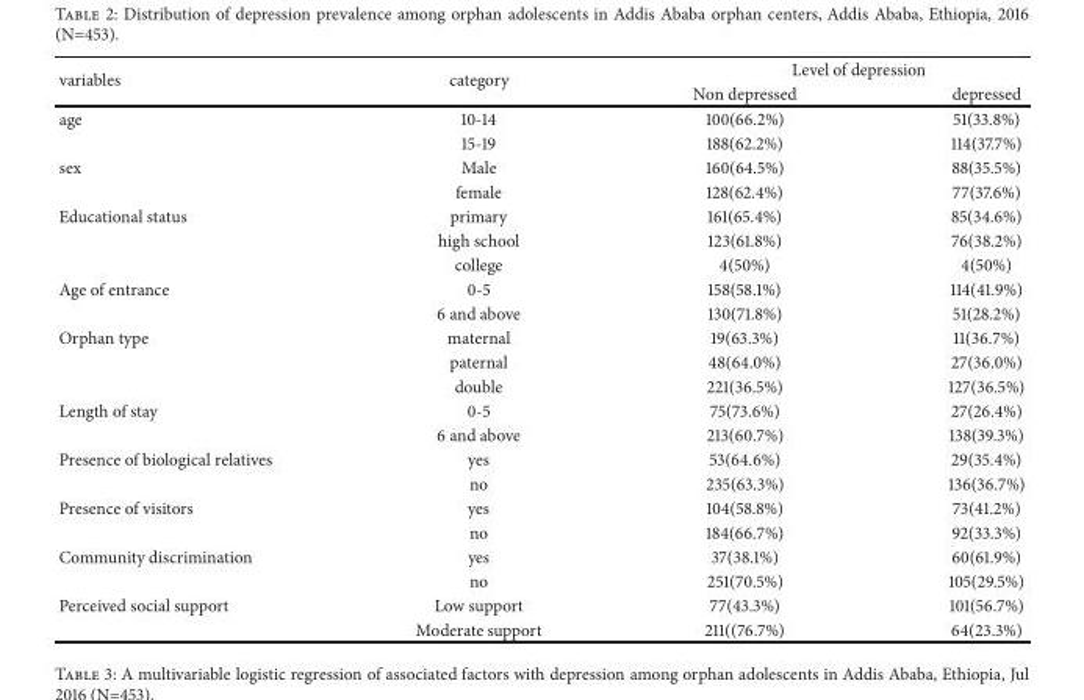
<table><thead><tr><td rowspan="2">variables</td><td rowspan="2">category</td><td colspan="2">Level of depression</td></tr><tr><td>Non depressed</td><td>depressed</td></tr></thead><tbody><tr><td rowspan="2">age</td><td>10-14</td><td>100(66.2%)</td><td>51(33.8%)</td></tr><tr><td>15-19</td><td>188(62.2%)</td><td>114(37.7%)</td></tr><tr><td rowspan="2">sex</td><td>Male</td><td>160(64.5%)</td><td>88(35.5%)</td></tr><tr><td>female</td><td>128(62.4%)</td><td>77(37.6%)</td></tr><tr><td rowspan="3">Educational status</td><td>primary</td><td>161(65.4%)</td><td>85(34.6%)</td></tr><tr><td>high school</td><td>123(61.8%)</td><td>76(38.2%)</td></tr><tr><td>college</td><td>4(50%)</td><td>4(50%)</td></tr><tr><td rowspan="2">Age of entrance</td><td>0-5</td><td>158(58.1%)</td><td>114(41.9%)</td></tr><tr><td>6 and above</td><td>130(71.8%)</td><td>51(28.2%)</td></tr><tr><td rowspan="3">Orphan type</td><td>maternal</td><td>19(63.3%)</td><td>11(36.7%)</td></tr><tr><td>paternal</td><td>48(64.0%)</td><td>27(36.0%)</td></tr><tr><td>double</td><td>221(36.5%)</td><td>127(36.5%)</td></tr><tr><td rowspan="2">Length of stay</td><td>0-5</td><td>75(73.6%)</td><td>27(26.4%)</td></tr><tr><td>6 and above</td><td>213(60.7%)</td><td>138(39.3%)</td></tr><tr><td rowspan="2">Presence of biological relatives</td><td>yes</td><td>53(64.6%)</td><td>29(35.4%)</td></tr><tr><td>no</td><td>235(63.3%)</td><td>136(36.7%)</td></tr><tr><td rowspan="2">Presence of visitors</td><td>yes</td><td>104(58.8%)</td><td>73(41.2%)</td></tr><tr><td>no</td><td>184(66.7%)</td><td>92(33.3%)</td></tr><tr><td rowspan="2">Community discrimination</td><td>yes</td><td>37(38.1%)</td><td>60(61.9%)</td></tr><tr><td>no</td><td>251(70.5%)</td><td>105(29.5%)</td></tr><tr><td rowspan="2">Perceived social support</td><td>Low support</td><td>77(43.3%)</td><td>101(56.7%)</td></tr><tr><td>Moderate support</td><td>211((76.7%)</td><td>64(23.3%)</td></tr></tbody></table>